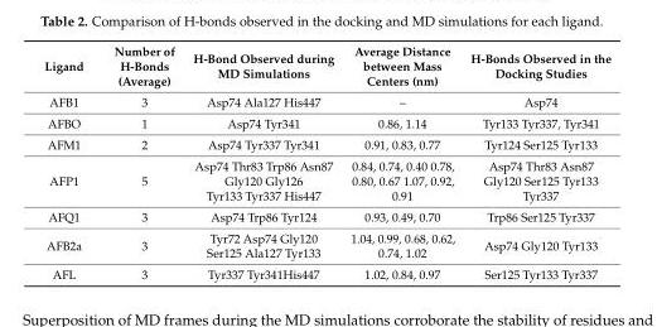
<table><thead><tr><td>Ligand</td><td>Number of H-Bonds (Average)</td><td>H-Bond Observed during MD Simulations</td><td>Average Distance between Mass Centers (nm)</td><td>H-Bonds Observed in the Docking Studies</td></tr></thead><tbody><tr><td>AFB1</td><td>3</td><td>Asp74 Ala127 His447</td><td>–</td><td>Asp74</td></tr><tr><td>AFBO</td><td>1</td><td>Asp74 Tyr341</td><td>0.86, 1.14</td><td>Tyr133 Tyr337, Tyr341</td></tr><tr><td>AFM1</td><td>2</td><td>Asp74 Tyr337 Tyr341</td><td>0.91, 0.83, 0.77</td><td>Tyr124 Ser125 Tyr133</td></tr><tr><td>AFP1</td><td>5</td><td>Asp74 Thr83 Trp86 Asn87 Gly120 Gly126 Tyr133 Tyr337 His447</td><td>0.84, 0.74, 0.40 0.78, 0.80, 0.67 1.07, 0.92, 0.91</td><td>Asp74 Thr83 Asn87 Gly120 Ser125 Tyr133 Tyr337</td></tr><tr><td>AFQ1</td><td>3</td><td>Asp74 Trp86 Tyr124</td><td>0.93, 0.49, 0.70</td><td>Trp86 Ser125 Tyr337</td></tr><tr><td>AFB2a</td><td>3</td><td>Tyr72 Asp74 Gly120 Ser125 Ala127 Tyr133</td><td>1.04, 0.99, 0.68, 0.62, 0.74, 1.02</td><td>Asp74 Gly120 Tyr133</td></tr><tr><td>AFL</td><td>3</td><td>Tyr337 Tyr341His447</td><td>1.02, 0.84, 0.97</td><td>Ser125 Tyr133 Tyr337</td></tr></tbody></table>